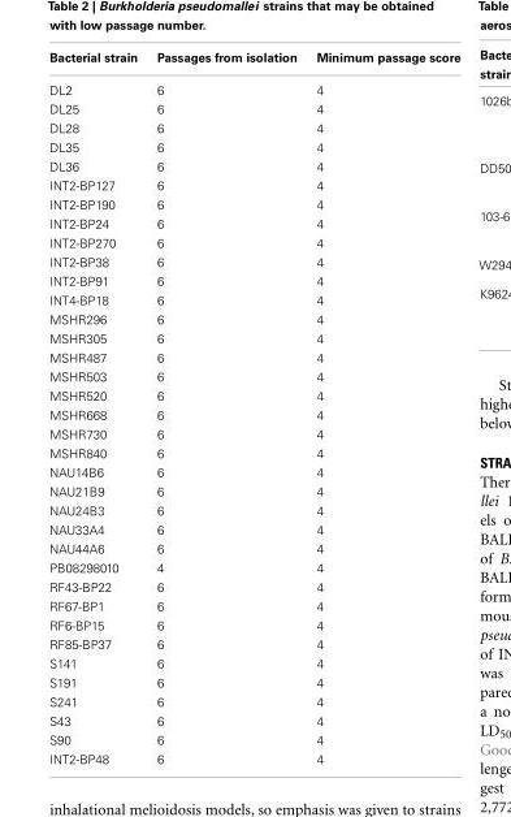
<table><thead><tr><td>Bacterial strain</td><td>Passages from isolation</td><td>Minimum passage score</td></tr></thead><tbody><tr><td>DL2</td><td>6</td><td>4</td></tr><tr><td>DL25</td><td>6</td><td>4</td></tr><tr><td>DL28</td><td>6</td><td>4</td></tr><tr><td>DL35</td><td>6</td><td>4</td></tr><tr><td>DL36</td><td>6</td><td>4</td></tr><tr><td>INT2-BP127</td><td>6</td><td>4</td></tr><tr><td>INT2-BP190</td><td>6</td><td>4</td></tr><tr><td>INT2-BP24</td><td>6</td><td>4</td></tr><tr><td>INT2-BP270</td><td>6</td><td>4</td></tr><tr><td>INT2-BP38</td><td>6</td><td>4</td></tr><tr><td>INT2-BP91</td><td>6</td><td>4</td></tr><tr><td>INT4-BP18</td><td>6</td><td>4</td></tr><tr><td>MSHR296</td><td>6</td><td>4</td></tr><tr><td>MSHR305</td><td>6</td><td>4</td></tr><tr><td>MSHR487</td><td>6</td><td>4</td></tr><tr><td>MSHR503</td><td>6</td><td>4</td></tr><tr><td>MSHR520</td><td>6</td><td>4</td></tr><tr><td>MSHR668</td><td>6</td><td>4</td></tr><tr><td>MSHR730</td><td>6</td><td>4</td></tr><tr><td>MSHR840</td><td>6</td><td>4</td></tr><tr><td>NAU14B6</td><td>6</td><td>4</td></tr><tr><td>NAU21B9</td><td>6</td><td>4</td></tr><tr><td>NAU24B3</td><td>6</td><td>4</td></tr><tr><td>NAU33A4</td><td>6</td><td>4</td></tr><tr><td>NAU44A6</td><td>6</td><td>4</td></tr><tr><td>PB08298010</td><td>4</td><td>4</td></tr><tr><td>RF43-BP22</td><td>6</td><td>4</td></tr><tr><td>RF67-BP1</td><td>6</td><td>4</td></tr><tr><td>RF6-BP15</td><td>6</td><td>4</td></tr><tr><td>RF85-BP37</td><td>6</td><td>4</td></tr><tr><td>S141</td><td>6</td><td>4</td></tr><tr><td>S191</td><td>6</td><td>4</td></tr><tr><td>S241</td><td>6</td><td>4</td></tr><tr><td>S43</td><td>6</td><td>4</td></tr><tr><td>S90</td><td>6</td><td>4</td></tr><tr><td>INT2-BP48</td><td>6</td><td>4</td></tr></tbody></table>